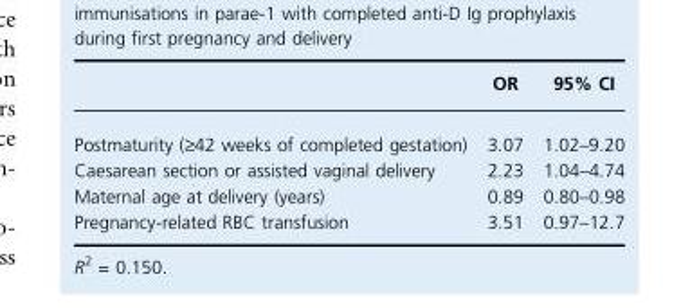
<table><thead><tr><td></td><td>OR</td><td>95% CI</td></tr></thead><tbody><tr><td>Postmaturity (‡42 weeks of completed gestation)</td><td>3.07</td><td>1.02–9.20</td></tr><tr><td>Caesarean section or assisted vaginal delivery</td><td>2.23</td><td>1.04–4.74</td></tr><tr><td>Maternal age at delivery (years)</td><td>0.89</td><td>0.80–0.98</td></tr><tr><td>Pregnancy-related RBC transfusion</td><td>3.51</td><td>0.97–12.7</td></tr></tbody></table>